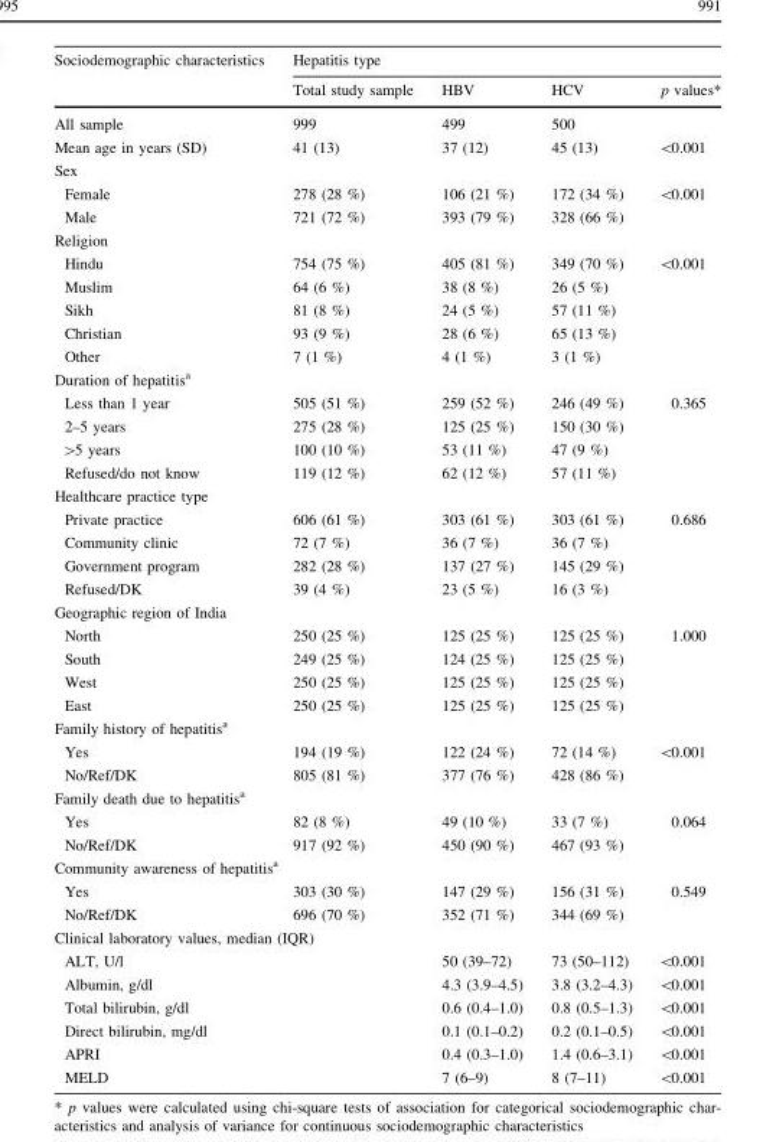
<table><thead><tr><td rowspan="2">Sociodemographic characteristics</td><td colspan="4">Hepatitis type</td></tr><tr><td>Total study sample</td><td>HBV</td><td>HCV</td><td>p values*</td></tr></thead><tbody><tr><td>All sample</td><td>999</td><td>499</td><td>500</td><td></td></tr><tr><td>Mean age in years (SD)</td><td>41 (13)</td><td>37 (12)</td><td>45 (13)</td><td>&lt;0.001</td></tr><tr><td colspan="5">Sex</td></tr><tr><td>Female</td><td>278 (28 %)</td><td>106 (21 %)</td><td>172 (34 %)</td><td rowspan="2">&lt;0.001</td></tr><tr><td>Male</td><td>721 (72 %)</td><td>393 (79 %)</td><td>328 (66 %)</td></tr><tr><td colspan="5">Religion</td></tr><tr><td>Hindu</td><td>754 (75 %)</td><td>405 (81 %)</td><td>349 (70 %)</td><td rowspan="5">&lt;0.001</td></tr><tr><td>Muslim</td><td>64 (6 %)</td><td>38 (8 %)</td><td>26 (5 %)</td></tr><tr><td>Sikh</td><td>81 (8 %)</td><td>24 (5 %)</td><td>57 (11 %)</td></tr><tr><td>Christian</td><td>93 (9 %)</td><td>28 (6 %)</td><td>65 (13 %)</td></tr><tr><td>Other</td><td>7 (1 %)</td><td>4 (1 %)</td><td>3 (1 %)</td></tr><tr><td colspan="5">Duration of hepatitis<sup>a</sup></td></tr><tr><td>Less than 1 year</td><td>505 (51 %)</td><td>259 (52 %)</td><td>246 (49 %)</td><td rowspan="4">0.365</td></tr><tr><td>2–5 years</td><td>275 (28 %)</td><td>125 (25 %)</td><td>150 (30 %)</td></tr><tr><td>&gt;5 years</td><td>100 (10 %)</td><td>53 (11 %)</td><td>47 (9 %)</td></tr><tr><td>Refused/do not know</td><td>119 (12 %)</td><td>62 (12 %)</td><td>57 (11 %)</td></tr><tr><td colspan="5">Healthcare practice type</td></tr><tr><td>Private practice</td><td>606 (61 %)</td><td>303 (61 %)</td><td>303 (61 %)</td><td rowspan="4">0.686</td></tr><tr><td>Community clinic</td><td>72 (7 %)</td><td>36 (7 %)</td><td>36 (7 %)</td></tr><tr><td>Government program</td><td>282 (28 %)</td><td>137 (27 %)</td><td>145 (29 %)</td></tr><tr><td>Refused/DK</td><td>39 (4 %)</td><td>23 (5 %)</td><td>16 (3 %)</td></tr><tr><td colspan="5">Geographic region of India</td></tr><tr><td>North</td><td>250 (25 %)</td><td>125 (25 %)</td><td>125 (25 %)</td><td rowspan="4">1.000</td></tr><tr><td>South</td><td>249 (25 %)</td><td>124 (25 %)</td><td>125 (25 %)</td></tr><tr><td>West</td><td>250 (25 %)</td><td>125 (25 %)</td><td>125 (25 %)</td></tr><tr><td>East</td><td>250 (25 %)</td><td>125 (25 %)</td><td>125 (25 %)</td></tr><tr><td colspan="5">Family history of hepatitis<sup>a</sup></td></tr><tr><td>Yes</td><td>194 (19 %)</td><td>122 (24 %)</td><td>72 (14 %)</td><td rowspan="2">&lt;0.001</td></tr><tr><td>No/Ref/DK</td><td>805 (81 %)</td><td>377 (76 %)</td><td>428 (86 %)</td></tr><tr><td colspan="5">Family death due to hepatitis<sup>a</sup></td></tr><tr><td>Yes</td><td>82 (8 %)</td><td>49 (10 %)</td><td>33 (7 %)</td><td rowspan="2">0.064</td></tr><tr><td>No/Ref/DK</td><td>917 (92 %)</td><td>450 (90 %)</td><td>467 (93 %)</td></tr><tr><td colspan="5">Community awareness of hepatitis<sup>a</sup></td></tr><tr><td>Yes</td><td>303 (30 %)</td><td>147 (29 %)</td><td>156 (31 %)</td><td rowspan="2">0.549</td></tr><tr><td>No/Ref/DK</td><td>696 (70 %)</td><td>352 (71 %)</td><td>344 (69 %)</td></tr><tr><td colspan="5">Clinical laboratory values, median (IQR)</td></tr><tr><td>ALT, U/l</td><td></td><td>50 (39–72)</td><td>73 (50–112)</td><td>&lt;0.001</td></tr><tr><td>Albumin, g/dl</td><td></td><td>4.3 (3.9–4.5)</td><td>3.8 (3.2–4.3)</td><td>&lt;0.001</td></tr><tr><td>Total bilirubin, g/dl</td><td></td><td>0.6 (0.4–1.0)</td><td>0.8 (0.5–1.3)</td><td>&lt;0.001</td></tr><tr><td>Direct bilirubin, mg/dl</td><td></td><td>0.1 (0.1–0.2)</td><td>0.2 (0.1–0.5)</td><td>&lt;0.001</td></tr><tr><td>APRI</td><td></td><td>0.4 (0.3–1.0)</td><td>1.4 (0.6–3.1)</td><td>&lt;0.001</td></tr><tr><td>MELD</td><td></td><td>7 (6–9)</td><td>8 (7–11)</td><td>&lt;0.001</td></tr></tbody></table>